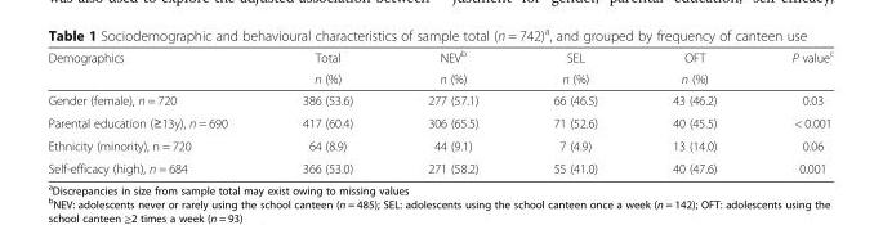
<table><thead><tr><td rowspan="2">Demographics</td><td rowspan="2">Total n (%)</td><td rowspan="2">NEV<sup>b</sup> n (%)</td><td rowspan="2">SEL n (%)</td><td rowspan="2">OFT n (%)</td><td rowspan="2">P value<sup>c</sup></td></tr><tr></tr></thead><tbody><tr><td>Gender (female), n = 720</td><td>386 (53.6)</td><td>277 (57.1)</td><td>66 (46.5)</td><td>43 (46.2)</td><td>0.03</td></tr><tr><td>Parental education (≥13y), n = 690</td><td>417 (60.4)</td><td>306 (65.5)</td><td>71 (52.6)</td><td>40 (45.5)</td><td>&lt; 0.001</td></tr><tr><td>Ethnicity (minority), n = 720</td><td>64 (8.9)</td><td>44 (9.1)</td><td>7 (4.9)</td><td>13 (14.0)</td><td>0.06</td></tr><tr><td>Self-efficacy (high), n = 684</td><td>366 (53.0)</td><td>271 (58.2)</td><td>55 (41.0)</td><td>40 (47.6)</td><td>0.001</td></tr></tbody></table>